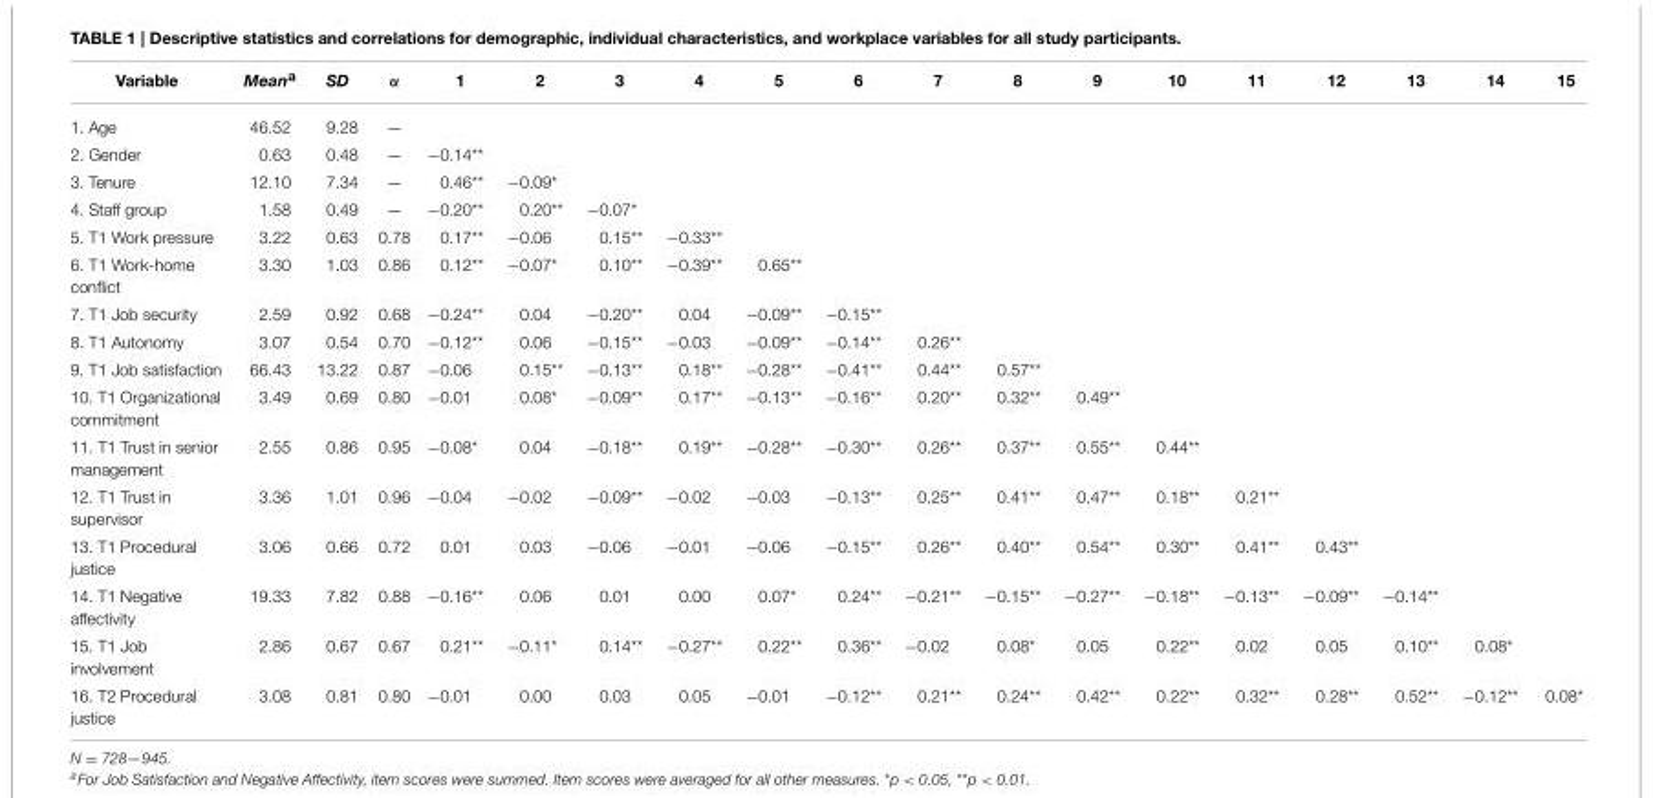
<table><thead><tr><td>Variable</td><td>Mean<sup>a</sup></td><td>SD</td><td>α</td><td>1</td><td>2</td><td>3</td><td>4</td><td>5</td><td>6</td><td>7</td><td>8</td><td>9</td><td>10</td><td>11</td><td>12</td><td>13</td><td>14</td><td>15</td></tr></thead><tbody><tr><td>1. Age</td><td>46.52</td><td>9.28</td><td>—</td><td></td><td></td><td></td><td></td><td></td><td></td><td></td><td></td><td></td><td></td><td></td><td></td><td></td><td></td><td></td></tr><tr><td>2. Gender</td><td>0.63</td><td>0.48</td><td>—</td><td>−0.14**</td><td></td><td></td><td></td><td></td><td></td><td></td><td></td><td></td><td></td><td></td><td></td><td></td><td></td><td></td></tr><tr><td>3. Tenure</td><td>12.10</td><td>7.34</td><td>—</td><td>0.46**</td><td>−0.09*</td><td></td><td></td><td></td><td></td><td></td><td></td><td></td><td></td><td></td><td></td><td></td><td></td><td></td></tr><tr><td>4. Staff group</td><td>1.58</td><td>0.49</td><td>—</td><td>−0.20**</td><td>0.20**</td><td>−0.07*</td><td></td><td></td><td></td><td></td><td></td><td></td><td></td><td></td><td></td><td></td><td></td><td></td></tr><tr><td>5. T1 Work pressure</td><td>3.22</td><td>0.63</td><td>0.78</td><td>0.17**</td><td>−0.06</td><td>0.15**</td><td>−0.33**</td><td></td><td></td><td></td><td></td><td></td><td></td><td></td><td></td><td></td><td></td><td></td></tr><tr><td>6. T1 Work-home conflict</td><td>3.30</td><td>1.03</td><td>0.86</td><td>0.12**</td><td>−0.07*</td><td>0.10**</td><td>−0.39**</td><td>0.65**</td><td></td><td></td><td></td><td></td><td></td><td></td><td></td><td></td><td></td><td></td></tr><tr><td>7. T1 Job security</td><td>2.59</td><td>0.92</td><td>0.68</td><td>−0.24**</td><td>0.04</td><td>−0.20**</td><td>0.04</td><td>−0.09**</td><td>−0.15**</td><td></td><td></td><td></td><td></td><td></td><td></td><td></td><td></td><td></td></tr><tr><td>8. T1 Autonomy</td><td>3.07</td><td>0.54</td><td>0.70</td><td>−0.12**</td><td>0.06</td><td>−0.15**</td><td>−0.03</td><td>−0.09**</td><td>−0.14**</td><td>0.26**</td><td></td><td></td><td></td><td></td><td></td><td></td><td></td><td></td></tr><tr><td>9. T1 Job satisfaction</td><td>66.43</td><td>13.22</td><td>0.87</td><td>−0.06</td><td>0.15**</td><td>−0.13**</td><td>0.18**</td><td>−0.28**</td><td>−0.41**</td><td>0.44**</td><td>0.57**</td><td></td><td></td><td></td><td></td><td></td><td></td><td></td></tr><tr><td>10. T1 Organizational commitment</td><td>3.49</td><td>0.69</td><td>0.80</td><td>−0.01</td><td>0.08*</td><td>−0.09**</td><td>0.17**</td><td>−0.13**</td><td>−0.16**</td><td>0.20**</td><td>0.32**</td><td>0.49**</td><td></td><td></td><td></td><td></td><td></td><td></td></tr><tr><td>11. T1 Trust in senior management</td><td>2.55</td><td>0.86</td><td>0.95</td><td>−0.08*</td><td>0.04</td><td>−0.18**</td><td>0.19**</td><td>−0.28**</td><td>−0.30**</td><td>0.26**</td><td>0.37**</td><td>0.55**</td><td>0.44**</td><td></td><td></td><td></td><td></td><td></td></tr><tr><td>12. T1 Trust in supervisor</td><td>3.36</td><td>1.01</td><td>0.96</td><td>−0.04</td><td>−0.02</td><td>−0.09**</td><td>−0.02</td><td>−0.03</td><td>−0.13**</td><td>0.25**</td><td>0.41**</td><td>0.47**</td><td>0.18**</td><td>0.21**</td><td></td><td></td><td></td><td></td></tr><tr><td>13. T1 Procedural justice</td><td>3.06</td><td>0.66</td><td>0.72</td><td>0.01</td><td>0.03</td><td>−0.06</td><td>−0.01</td><td>−0.06</td><td>−0.15**</td><td>0.26**</td><td>0.40**</td><td>0.54**</td><td>0.30**</td><td>0.41**</td><td>0.43**</td><td></td><td></td><td></td></tr><tr><td>14. T1 Negative affectivity</td><td>19.33</td><td>7.82</td><td>0.88</td><td>−0.16**</td><td>0.06</td><td>0.01</td><td>0.00</td><td>0.07*</td><td>0.24**</td><td>−0.21**</td><td>−0.15**</td><td>−0.27**</td><td>−0.18**</td><td>−0.13**</td><td>−0.09**</td><td>−0.14**</td><td></td><td></td></tr><tr><td>15. T1 Job involvement</td><td>2.86</td><td>0.67</td><td>0.67</td><td>0.21**</td><td>−0.11*</td><td>0.14**</td><td>−0.27**</td><td>0.22**</td><td>0.36**</td><td>−0.02</td><td>0.08*</td><td>0.05</td><td>0.22**</td><td>0.02</td><td>0.05</td><td>0.10**</td><td>0.08*</td><td></td></tr><tr><td>16. T2 Procedural justice</td><td>3.08</td><td>0.81</td><td>0.80</td><td>−0.01</td><td>0.00</td><td>0.03</td><td>0.05</td><td>−0.01</td><td>−0.12**</td><td>0.21**</td><td>0.24**</td><td>0.42**</td><td>0.22**</td><td>0.32**</td><td>0.28**</td><td>0.52**</td><td>−0.12**</td><td>0.08*</td></tr></tbody></table>